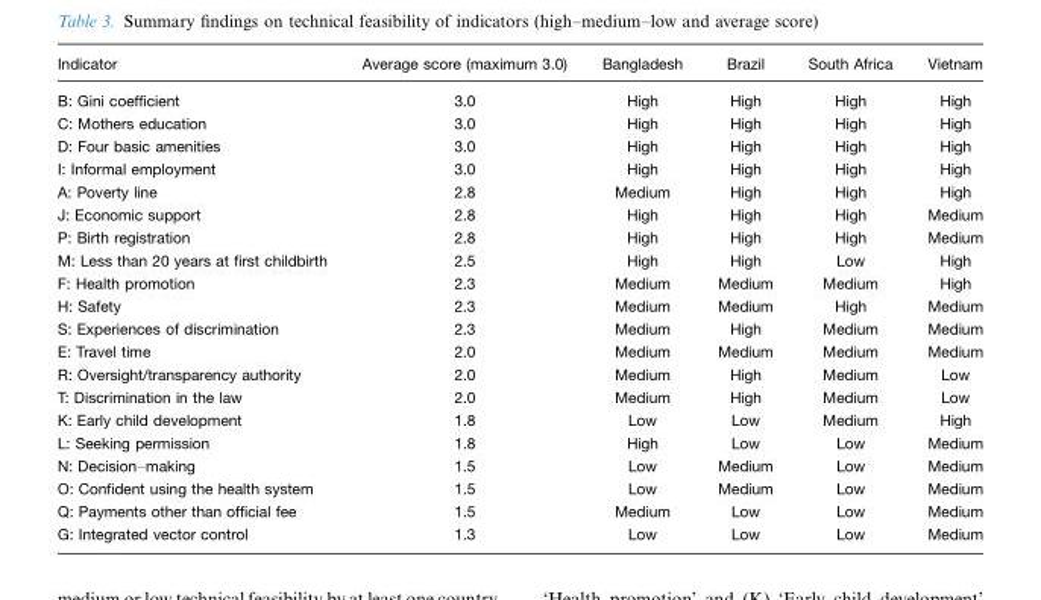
<table><thead><tr><td>Indicator</td><td>Average score (maximum 3.0)</td><td>Bangladesh</td><td>Brazil</td><td>South Africa</td><td>Vietnam</td></tr></thead><tbody><tr><td>B: Gini coefficient</td><td>3.0</td><td>High</td><td>High</td><td>High</td><td>High</td></tr><tr><td>C: Mothers education</td><td>3.0</td><td>High</td><td>High</td><td>High</td><td>High</td></tr><tr><td>D: Four basic amenities</td><td>3.0</td><td>High</td><td>High</td><td>High</td><td>High</td></tr><tr><td>I: Informal employment</td><td>3.0</td><td>High</td><td>High</td><td>High</td><td>High</td></tr><tr><td>A: Poverty line</td><td>2.8</td><td>Medium</td><td>High</td><td>High</td><td>High</td></tr><tr><td>J: Economic support</td><td>2.8</td><td>High</td><td>High</td><td>High</td><td>Medium</td></tr><tr><td>P: Birth registration</td><td>2.8</td><td>High</td><td>High</td><td>High</td><td>Medium</td></tr><tr><td>M: Less than 20 years at first childbirth</td><td>2.5</td><td>High</td><td>High</td><td>Low</td><td>High</td></tr><tr><td>F: Health promotion</td><td>2.3</td><td>Medium</td><td>Medium</td><td>Medium</td><td>High</td></tr><tr><td>H: Safety</td><td>2.3</td><td>Medium</td><td>Medium</td><td>High</td><td>Medium</td></tr><tr><td>S: Experiences of discrimination</td><td>2.3</td><td>Medium</td><td>High</td><td>Medium</td><td>Medium</td></tr><tr><td>E: Travel time</td><td>2.0</td><td>Medium</td><td>Medium</td><td>Medium</td><td>Medium</td></tr><tr><td>R: Oversight/transparency authority</td><td>2.0</td><td>Medium</td><td>High</td><td>Medium</td><td>Low</td></tr><tr><td>T: Discrimination in the law</td><td>2.0</td><td>Medium</td><td>High</td><td>Medium</td><td>Low</td></tr><tr><td>K: Early child development</td><td>1.8</td><td>Low</td><td>Low</td><td>Medium</td><td>High</td></tr><tr><td>L: Seeking permission</td><td>1.8</td><td>High</td><td>Low</td><td>Low</td><td>Medium</td></tr><tr><td>N: Decision–making</td><td>1.5</td><td>Low</td><td>Medium</td><td>Low</td><td>Medium</td></tr><tr><td>O: Confident using the health system</td><td>1.5</td><td>Low</td><td>Medium</td><td>Low</td><td>Medium</td></tr><tr><td>Q: Payments other than official fee</td><td>1.5</td><td>Medium</td><td>Low</td><td>Low</td><td>Medium</td></tr><tr><td>G: Integrated vector control</td><td>1.3</td><td>Low</td><td>Low</td><td>Low</td><td>Medium</td></tr></tbody></table>